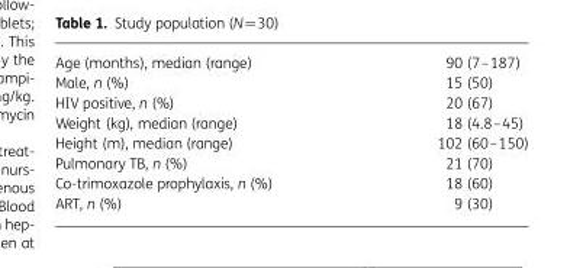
<table><tbody><tr><td>Age (months), median (range)</td><td>90 (7–187)</td></tr><tr><td>Male, n (%)</td><td>15 (50)</td></tr><tr><td>HIV positive, n (%)</td><td>20 (67)</td></tr><tr><td>Weight (kg), median (range)</td><td>18 (4.8–45)</td></tr><tr><td>Height (m), median (range)</td><td>102 (60–150)</td></tr><tr><td>Pulmonary TB, n (%)</td><td>21 (70)</td></tr><tr><td>Co-trimoxazole prophylaxis, n (%)</td><td>18 (60)</td></tr><tr><td>ART, n (%)</td><td>9 (30)</td></tr></tbody></table>